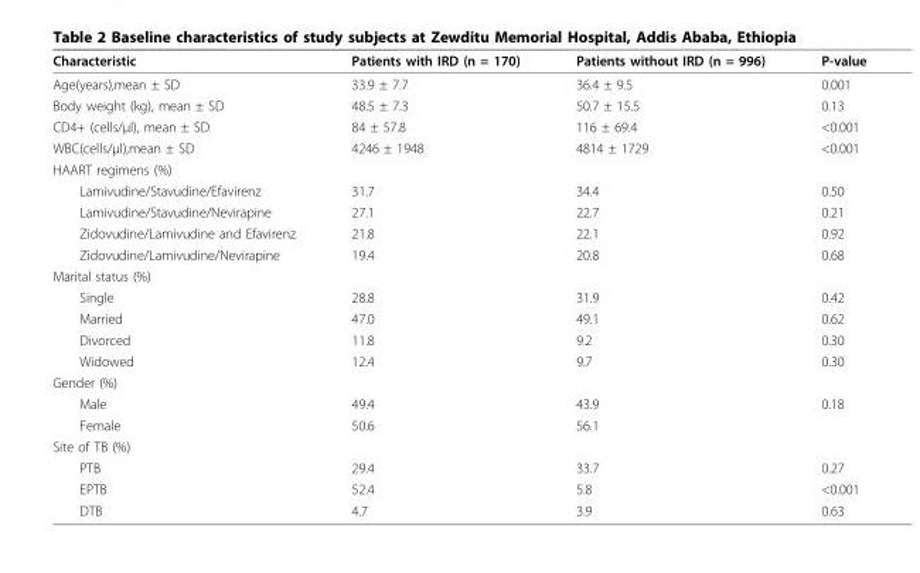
<table><thead><tr><td>Characteristic</td><td>Patients with IRD (n = 170)</td><td>Patients without IRD (n = 996)</td><td>P-value</td></tr></thead><tbody><tr><td>Age(years),mean ± SD</td><td>33.9 ± 7.7</td><td>36.4 ± 9.5</td><td>0.001</td></tr><tr><td>Body weight (kg), mean ± SD</td><td>48.5 ± 7.3</td><td>50.7 ± 15.5</td><td>0.13</td></tr><tr><td>CD4+ (cells/μl), mean ± SD</td><td>84 ± 57.8</td><td>116 ± 69.4</td><td>&lt;0.001</td></tr><tr><td>WBC(cells/μl),mean ± SD</td><td>4246 ± 1948</td><td>4814 ± 1729</td><td>&lt;0.001</td></tr><tr><td colspan="4">HAART regimens (%)</td></tr><tr><td>Lamivudine/Stavudine/Efavirenz</td><td>31.7</td><td>34.4</td><td>0.50</td></tr><tr><td>Lamivudine/Stavudine/Nevirapine</td><td>27.1</td><td>22.7</td><td>0.21</td></tr><tr><td>Zidovudine/Lamivudine and Efavirenz</td><td>21.8</td><td>22.1</td><td>0.92</td></tr><tr><td>Zidovudine/Lamivudine/Nevirapine</td><td>19.4</td><td>20.8</td><td>0.68</td></tr><tr><td colspan="4">Marital status (%)</td></tr><tr><td>Single</td><td>28.8</td><td>31.9</td><td>0.42</td></tr><tr><td>Married</td><td>47.0</td><td>49.1</td><td>0.62</td></tr><tr><td>Divorced</td><td>11.8</td><td>9.2</td><td>0.30</td></tr><tr><td>Widowed</td><td>12.4</td><td>9.7</td><td>0.30</td></tr><tr><td colspan="4">Gender (%)</td></tr><tr><td>Male</td><td>49.4</td><td>43.9</td><td>0.18</td></tr><tr><td>Female</td><td>50.6</td><td>56.1</td><td></td></tr><tr><td colspan="4">Site of TB (%)</td></tr><tr><td>PTB</td><td>29.4</td><td>33.7</td><td>0.27</td></tr><tr><td>EPTB</td><td>52.4</td><td>5.8</td><td>&lt;0.001</td></tr><tr><td>DTB</td><td>4.7</td><td>3.9</td><td>0.63</td></tr></tbody></table>